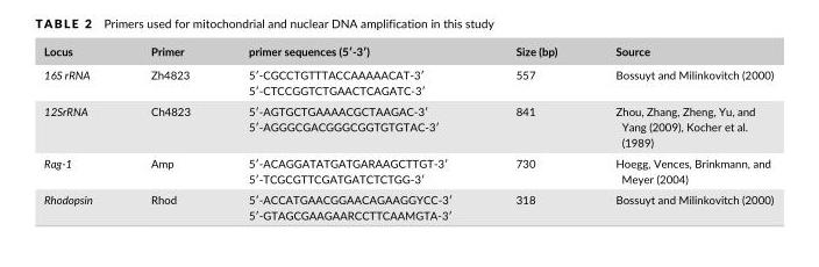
<table><thead><tr><td>Locus</td><td>Primer</td><td>primer sequences (5′- 3′)</td><td>Size (bp)</td><td>Source</td></tr></thead><tbody><tr><td>16S rRNA</td><td>Zh4823</td><td>5′- CGCCTGTTTACCAAAAACAT- 3′ 5′- CTCCGGTCTGAACTCAGATC- 3′</td><td>557</td><td>Bossuyt and Milinkovitch (2000)</td></tr><tr><td>12SrRNA</td><td>Ch4823</td><td>5′- AGTGCTGAAAACGCTAAGAC- 3′ 5′- AGGGCGACGGGCGGTGTGTAC- 3′</td><td>841</td><td>Zhou, Zhang, Zheng, Yu, and Yang (2009), Kocher et al. (1989)</td></tr><tr><td>Rag-1</td><td>Amp</td><td>5′- ACAGGATATGATGARAAGCTTGT- 3′ 5′- TCGCGTTCGATGATCTCTGG- 3′</td><td>730</td><td>Hoegg, Vences, Brinkmann, and Meyer (2004)</td></tr><tr><td>Rhodopsin</td><td>Rhod</td><td>5′- ACCATGAACGGAACAGAAGGYCC- 3′ 5′- GTAGCGAAGAARCCTTCAAMGTA- 3′</td><td>318</td><td>Bossuyt and Milinkovitch (2000)</td></tr></tbody></table>